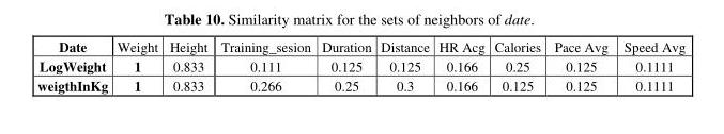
<table><thead><tr><td>Date</td><td>Weight</td><td>Height</td><td>Training_sesion</td><td>Duration</td><td>Distance</td><td>HR Acg</td><td>Calories</td><td>Pace Avg</td><td>Speed Avg</td></tr></thead><tbody><tr><td>LogWeight</td><td>1</td><td>0.833</td><td>0.111</td><td>0.125</td><td>0.125</td><td>0.166</td><td>0.25</td><td>0.125</td><td>0.1111</td></tr><tr><td>weigthInKg</td><td>1</td><td>0.833</td><td>0.266</td><td>0.25</td><td>0.3</td><td>0.166</td><td>0.125</td><td>0.125</td><td>0.1111</td></tr></tbody></table>